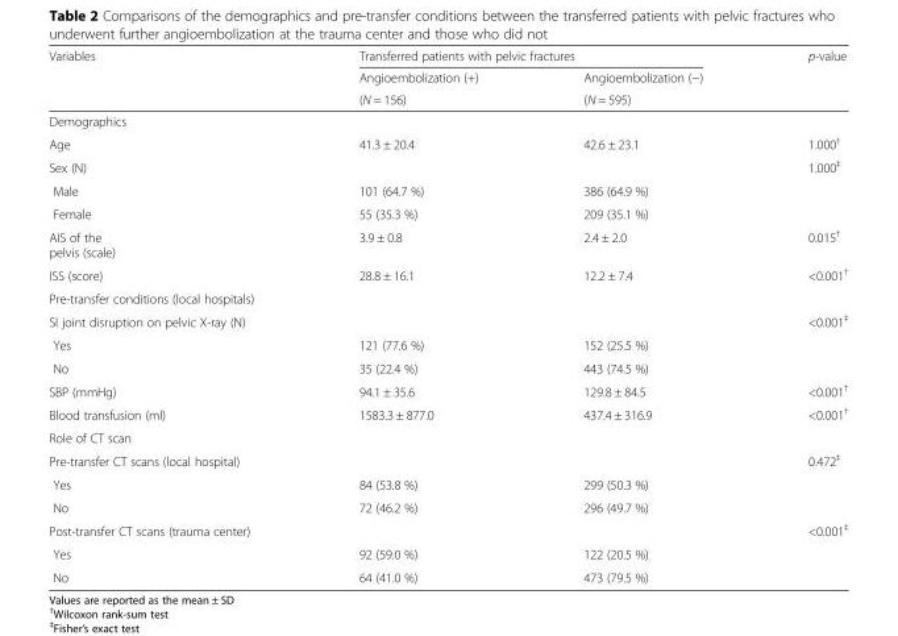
<table><thead><tr><td rowspan="3">Variables</td><td colspan="2">Transferred patients with pelvic fractures</td><td rowspan="3">p-value</td></tr><tr><td rowspan="2">Angioembolization (+) (N = 156)</td><td rowspan="2">Angioembolization (−) (N = 595)</td></tr><tr></tr></thead><tbody><tr><td colspan="4">Demographics</td></tr><tr><td>Age</td><td>41.3 ± 20.4</td><td>42.6 ± 23.1</td><td>1.000<sup>†</sup></td></tr><tr><td>Sex (N)</td><td></td><td></td><td>1.000<sup>‡</sup></td></tr><tr><td>Male</td><td>101 (64.7 %)</td><td>386 (64.9 %)</td><td></td></tr><tr><td>Female</td><td>55 (35.3 %)</td><td>209 (35.1 %)</td><td></td></tr><tr><td>AIS of the pelvis (scale)</td><td>3.9 ± 0.8</td><td>2.4 ± 2.0</td><td>0.015<sup>†</sup></td></tr><tr><td>ISS (score)</td><td>28.8 ± 16.1</td><td>12.2 ± 7.4</td><td>&lt;0.001<sup>†</sup></td></tr><tr><td colspan="4">Pre-transfer conditions (local hospitals)</td></tr><tr><td>SI joint disruption on pelvic X-ray (N)</td><td></td><td></td><td>&lt;0.001<sup>‡</sup></td></tr><tr><td>Yes</td><td>121 (77.6 %)</td><td>152 (25.5 %)</td><td></td></tr><tr><td>No</td><td>35 (22.4 %)</td><td>443 (74.5 %)</td><td></td></tr><tr><td>SBP (mmHg)</td><td>94.1 ± 35.6</td><td>129.8 ± 84.5</td><td>&lt;0.001<sup>†</sup></td></tr><tr><td>Blood transfusion (ml)</td><td>1583.3 ± 877.0</td><td>437.4 ± 316.9</td><td>&lt;0.001<sup>†</sup></td></tr><tr><td colspan="4">Role of CT scan</td></tr><tr><td>Pre-transfer CT scans (local hospital)</td><td></td><td></td><td>0.472<sup>‡</sup></td></tr><tr><td>Yes</td><td>84 (53.8 %)</td><td>299 (50.3 %)</td><td></td></tr><tr><td>No</td><td>72 (46.2 %)</td><td>296 (49.7 %)</td><td></td></tr><tr><td>Post-transfer CT scans (trauma center)</td><td></td><td></td><td>&lt;0.001<sup>‡</sup></td></tr><tr><td>Yes</td><td>92 (59.0 %)</td><td>122 (20.5 %)</td><td></td></tr><tr><td>No</td><td>64 (41.0 %)</td><td>473 (79.5 %)</td><td></td></tr></tbody></table>